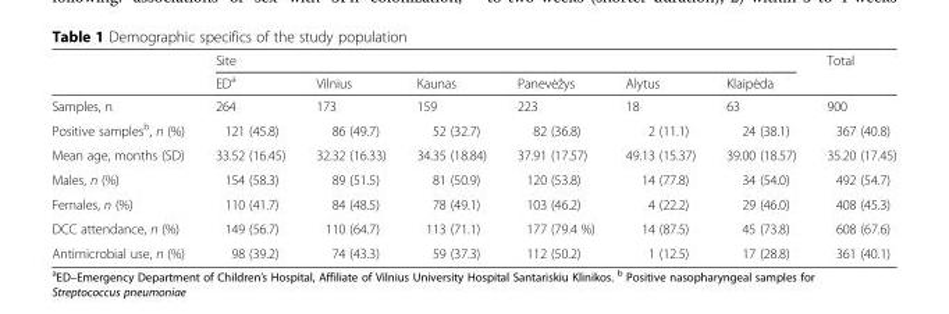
<table><thead><tr><td rowspan="2"></td><td colspan="6">Site</td><td rowspan="2">Total</td></tr><tr><td>ED<sup>a</sup></td><td>Vilnius</td><td>Kaunas</td><td>Panevėžys</td><td>Alytus</td><td>Klaipėda</td></tr></thead><tbody><tr><td>Samples, n</td><td>264</td><td>173</td><td>159</td><td>223</td><td>18</td><td>63</td><td>900</td></tr><tr><td>Positive samples<sup>b</sup>, n (%)</td><td>121 (45.8)</td><td>86 (49.7)</td><td>52 (32.7)</td><td>82 (36.8)</td><td>2 (11.1)</td><td>24 (38.1)</td><td>367 (40.8)</td></tr><tr><td>Mean age, months (SD)</td><td>33.52 (16.45)</td><td>32.32 (16.33)</td><td>34.35 (18.84)</td><td>37.91 (17.57)</td><td>49.13 (15.37)</td><td>39.00 (18.57)</td><td>35.20 (17.45)</td></tr><tr><td>Males, n (%)</td><td>154 (58.3)</td><td>89 (51.5)</td><td>81 (50.9)</td><td>120 (53.8)</td><td>14 (77.8)</td><td>34 (54.0)</td><td>492 (54.7)</td></tr><tr><td>Females, n (%)</td><td>110 (41.7)</td><td>84 (48.5)</td><td>78 (49.1)</td><td>103 (46.2)</td><td>4 (22.2)</td><td>29 (46.0)</td><td>408 (45.3)</td></tr><tr><td>DCC attendance, n (%)</td><td>149 (56.7)</td><td>110 (64.7)</td><td>113 (71.1)</td><td>177 (79.4 %)</td><td>14 (87.5)</td><td>45 (73.8)</td><td>608 (67.6)</td></tr><tr><td>Antimicrobial use, n (%)</td><td>98 (39.2)</td><td>74 (43.3)</td><td>59 (37.3)</td><td>112 (50.2)</td><td>1 (12.5)</td><td>17 (28.8)</td><td>361 (40.1)</td></tr></tbody></table>